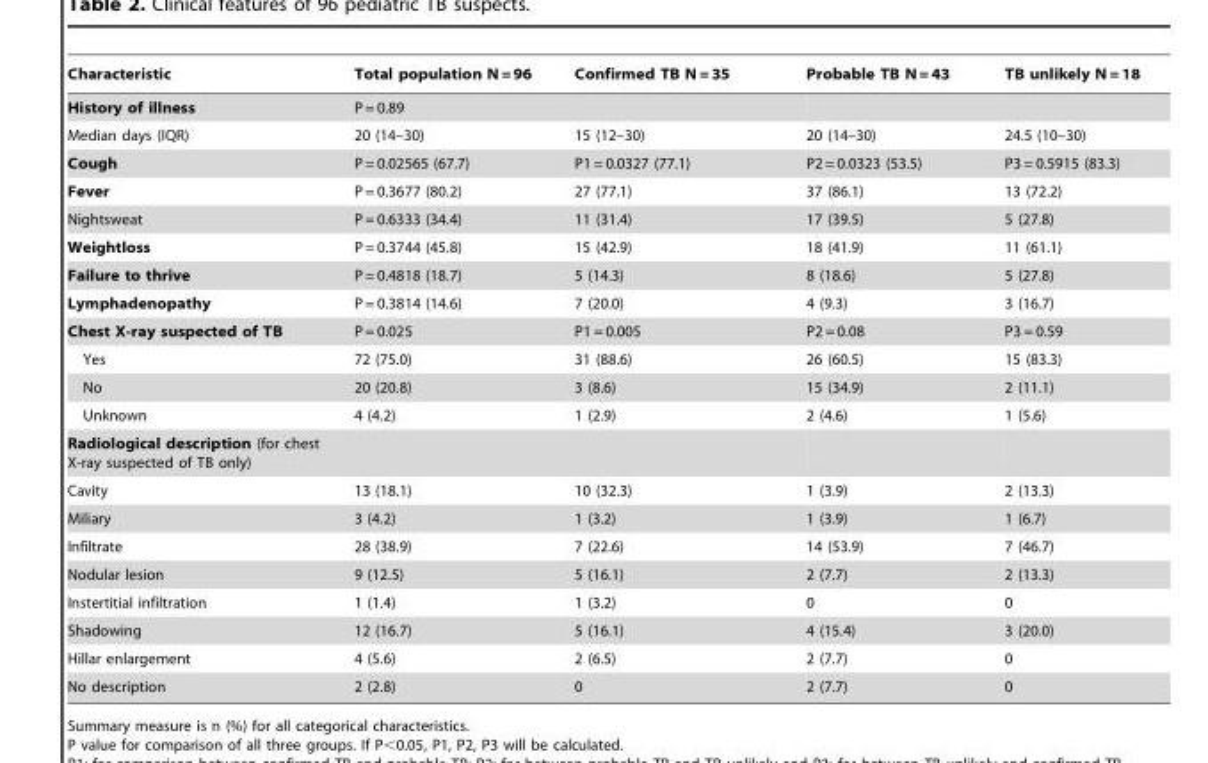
<table><thead><tr><td>Characteristic</td><td>Total population N = 96</td><td>Confirmed TB N = 35</td><td>Probable TB N = 43</td><td>TB unlikely N = 18</td></tr></thead><tbody><tr><td>History of illness</td><td>P = 0.89</td><td></td><td></td><td></td></tr><tr><td>Median days (IQR)</td><td>20 (14–30)</td><td>15 (12–30)</td><td>20 (14–30)</td><td>24.5 (10–30)</td></tr><tr><td>Cough</td><td>P = 0.02565 (67.7)</td><td>P1 = 0.0327 (77.1)</td><td>P2 = 0.0323 (53.5)</td><td>P3 = 0.5915 (83.3)</td></tr><tr><td>Fever</td><td>P = 0.3677 (80.2)</td><td>27 (77.1)</td><td>37 (86.1)</td><td>13 (72.2)</td></tr><tr><td>Nightsweat</td><td>P = 0.6333 (34.4)</td><td>11 (31.4)</td><td>17 (39.5)</td><td>5 (27.8)</td></tr><tr><td>Weightloss</td><td>P = 0.3744 (45.8)</td><td>15 (42.9)</td><td>18 (41.9)</td><td>11 (61.1)</td></tr><tr><td>Failure to thrive</td><td>P = 0.4818 (18.7)</td><td>5 (14.3)</td><td>8 (18.6)</td><td>5 (27.8)</td></tr><tr><td>Lymphadenopathy</td><td>P = 0.3814 (14.6)</td><td>7 (20.0)</td><td>4 (9.3)</td><td>3 (16.7)</td></tr><tr><td>Chest X-ray suspected of TB</td><td>P = 0.025</td><td>P1 = 0.005</td><td>P2 = 0.08</td><td>P3 = 0.59</td></tr><tr><td>Yes</td><td>72 (75.0)</td><td>31 (88.6)</td><td>26 (60.5)</td><td>15 (83.3)</td></tr><tr><td>No</td><td>20 (20.8)</td><td>3 (8.6)</td><td>15 (34.9)</td><td>2 (11.1)</td></tr><tr><td>Unknown</td><td>4 (4.2)</td><td>1 (2.9)</td><td>2 (4.6)</td><td>1 (5.6)</td></tr><tr><td colspan="5">Radiological description (for chest X-ray suspected of TB only)</td></tr><tr><td>Cavity</td><td>13 (18.1)</td><td>10 (32.3)</td><td>1 (3.9)</td><td>2 (13.3)</td></tr><tr><td>Miliary</td><td>3 (4.2)</td><td>1 (3.2)</td><td>1 (3.9)</td><td>1 (6.7)</td></tr><tr><td>Infiltrate</td><td>28 (38.9)</td><td>7 (22.6)</td><td>14 (53.9)</td><td>7 (46.7)</td></tr><tr><td>Nodular lesion</td><td>9 (12.5)</td><td>5 (16.1)</td><td>2 (7.7)</td><td>2 (13.3)</td></tr><tr><td>Instertitial infiltration</td><td>1 (1.4)</td><td>1 (3.2)</td><td>0</td><td>0</td></tr><tr><td>Shadowing</td><td>12 (16.7)</td><td>5 (16.1)</td><td>4 (15.4)</td><td>3 (20.0)</td></tr><tr><td>Hillar enlargement</td><td>4 (5.6)</td><td>2 (6.5)</td><td>2 (7.7)</td><td>0</td></tr><tr><td>No description</td><td>2 (2.8)</td><td>0</td><td>2 (7.7)</td><td>0</td></tr></tbody></table>